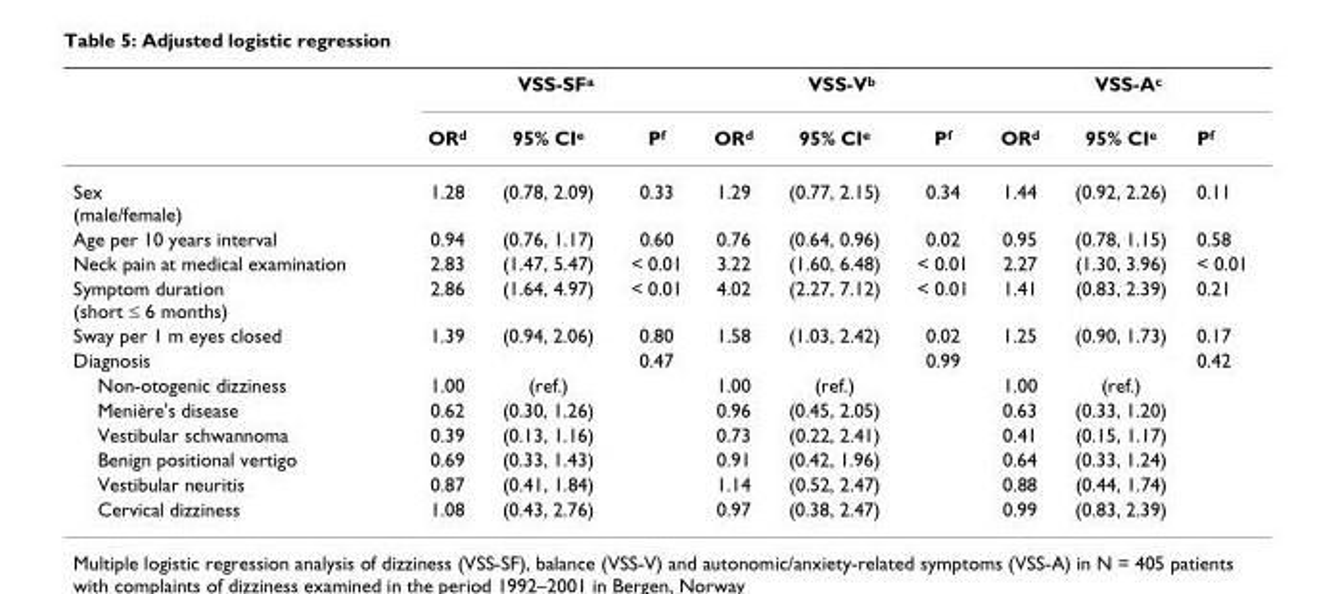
<table><thead><tr><td rowspan="2"></td><td colspan="3">VSS-SF<sup>a</sup></td><td colspan="3">VSS-V<sup>b</sup></td><td colspan="3">VSS-A<sup>c</sup></td></tr><tr><td>OR<sup>d</sup></td><td>95% CI<sup>e</sup></td><td>P<sup>f</sup></td><td>OR<sup>d</sup></td><td>95% CI<sup>e</sup></td><td>P<sup>f</sup></td><td>OR<sup>d</sup></td><td>95% CI<sup>e</sup></td><td>P<sup>f</sup></td></tr></thead><tbody><tr><td>Sex (male/female)</td><td>1.28</td><td>(0.78, 2.09)</td><td>0.33</td><td>1.29</td><td>(0.77, 2.15)</td><td>0.34</td><td>1.44</td><td>(0.92, 2.26)</td><td>0.11</td></tr><tr><td>Age per 10 years interval</td><td>0.94</td><td>(0.76, 1.17)</td><td>0.60</td><td>0.76</td><td>(0.64, 0.96)</td><td>0.02</td><td>0.95</td><td>(0.78, 1.15)</td><td>0.58</td></tr><tr><td>Neck pain at medical examination</td><td>2.83</td><td>(1.47, 5.47)</td><td>&lt; 0.01</td><td>3.22</td><td>(1.60, 6.48)</td><td>&lt; 0.01</td><td>2.27</td><td>(1.30, 3.96)</td><td>&lt; 0.01</td></tr><tr><td>Symptom duration (short ≤ 6 months)</td><td>2.86</td><td>(1.64, 4.97)</td><td>&lt; 0.01</td><td>4.02</td><td>(2.27, 7.12)</td><td>&lt; 0.01</td><td>1.41</td><td>(0.83, 2.39)</td><td>0.21</td></tr><tr><td>Sway per 1 m eyes closed</td><td>1.39</td><td>(0.94, 2.06)</td><td>0.80</td><td>1.58</td><td>(1.03, 2.42)</td><td>0.02</td><td>1.25</td><td>(0.90, 1.73)</td><td>0.17</td></tr><tr><td>Diagnosis</td><td></td><td></td><td>0.47</td><td></td><td></td><td>0.99</td><td></td><td></td><td>0.42</td></tr><tr><td>Non-otogenic dizziness</td><td>1.00</td><td>(ref.)</td><td></td><td>1.00</td><td>(ref.)</td><td></td><td>1.00</td><td>(ref.)</td><td></td></tr><tr><td>Menière&#x27;s disease</td><td>0.62</td><td>(0.30, 1.26)</td><td></td><td>0.96</td><td>(0.45, 2.05)</td><td></td><td>0.63</td><td>(0.33, 1.20)</td><td></td></tr><tr><td>Vestibular schwannoma</td><td>0.39</td><td>(0.13, 1.16)</td><td></td><td>0.73</td><td>(0.22, 2.41)</td><td></td><td>0.41</td><td>(0.15, 1.17)</td><td></td></tr><tr><td>Benign positional vertigo</td><td>0.69</td><td>(0.33, 1.43)</td><td></td><td>0.91</td><td>(0.42, 1.96)</td><td></td><td>0.64</td><td>(0.33, 1.24)</td><td></td></tr><tr><td>Vestibular neuritis</td><td>0.87</td><td>(0.41, 1.84)</td><td></td><td>1.14</td><td>(0.52, 2.47)</td><td></td><td>0.88</td><td>(0.44, 1.74)</td><td></td></tr><tr><td>Cervical dizziness</td><td>1.08</td><td>(0.43, 2.76)</td><td></td><td>0.97</td><td>(0.38, 2.47)</td><td></td><td>0.99</td><td>(0.83, 2.39)</td><td></td></tr></tbody></table>